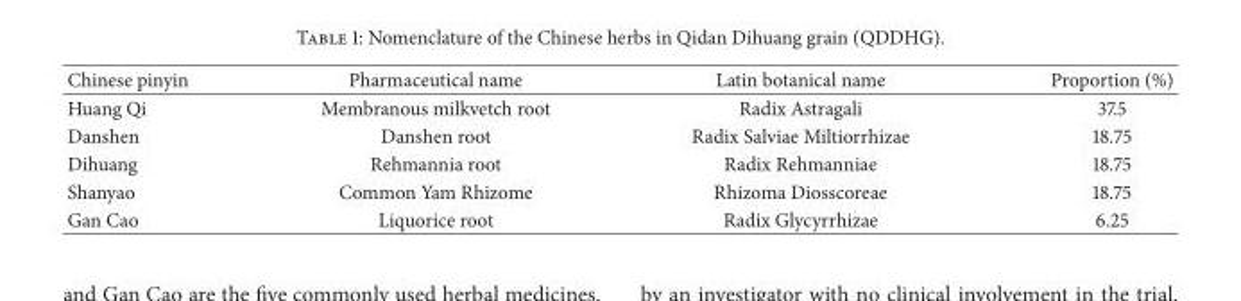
<table><thead><tr><td>Chinese pinyin</td><td>Pharmaceutical name</td><td>Latin botanical name</td><td>Proportion (%)</td></tr></thead><tbody><tr><td>Huang Qi</td><td>Membranous milkvetch root</td><td>Radix Astragali</td><td>37.5</td></tr><tr><td>Danshen</td><td>Danshen root</td><td>Radix Salviae Miltiorrhizae</td><td>18.75</td></tr><tr><td>Dihuang</td><td>Rehmannia root</td><td>Radix Rehmanniae</td><td>18.75</td></tr><tr><td>Shanyao</td><td>Common Yam Rhizome</td><td>Rhizoma Diosscoreae</td><td>18.75</td></tr><tr><td>Gan Cao</td><td>Liquorice root</td><td>Radix Glycyrrhizae</td><td>6.25</td></tr></tbody></table>